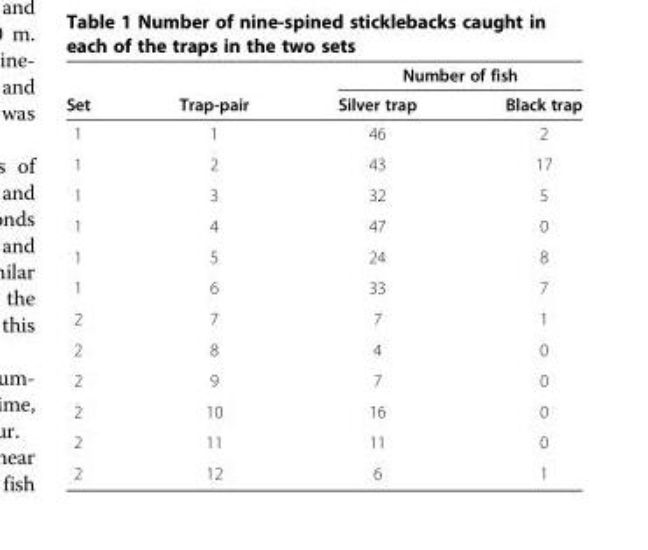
<table><thead><tr><td rowspan="2">Set</td><td rowspan="2">Trap-pair</td><td colspan="2">Number of fish</td></tr><tr><td>Silver trap</td><td>Black trap</td></tr></thead><tbody><tr><td>1</td><td>1</td><td>46</td><td>2</td></tr><tr><td>1</td><td>2</td><td>43</td><td>17</td></tr><tr><td>1</td><td>3</td><td>32</td><td>5</td></tr><tr><td>1</td><td>4</td><td>47</td><td>0</td></tr><tr><td>1</td><td>5</td><td>24</td><td>8</td></tr><tr><td>1</td><td>6</td><td>33</td><td>7</td></tr><tr><td>2</td><td>7</td><td>7</td><td>1</td></tr><tr><td>2</td><td>8</td><td>4</td><td>0</td></tr><tr><td>2</td><td>9</td><td>7</td><td>0</td></tr><tr><td>2</td><td>10</td><td>16</td><td>0</td></tr><tr><td>2</td><td>11</td><td>11</td><td>0</td></tr><tr><td>2</td><td>12</td><td>6</td><td>1</td></tr></tbody></table>